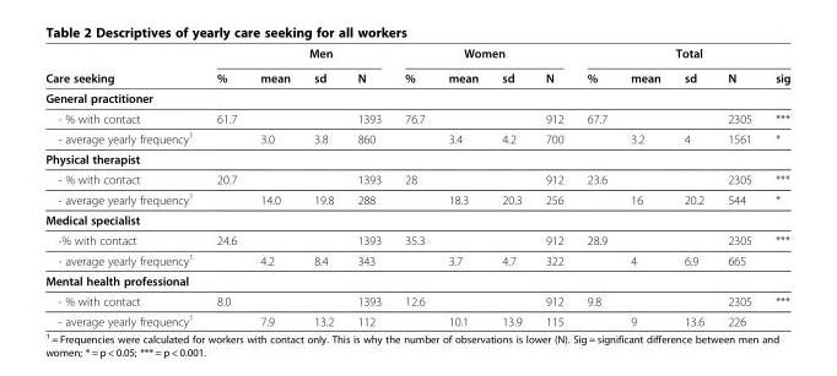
<table><thead><tr><td rowspan="2">Care seeking</td><td rowspan="2">%</td><td colspan="3">Men</td><td colspan="4">Women</td><td colspan="5">Total</td></tr><tr><td>mean</td><td>sd</td><td>N</td><td>%</td><td>mean</td><td>sd</td><td>N</td><td>%</td><td>mean</td><td>sd</td><td>N</td><td>sig</td></tr></thead><tbody><tr><td colspan="14">General practitioner</td></tr><tr><td>- % with contact</td><td>61.7</td><td></td><td></td><td>1393</td><td>76.7</td><td></td><td></td><td>912</td><td>67.7</td><td></td><td></td><td>2305</td><td>***</td></tr><tr><td>- average yearly frequency<sup>1</sup></td><td></td><td>3.0</td><td>3.8</td><td>860</td><td></td><td>3.4</td><td>4.2</td><td>700</td><td></td><td>3.2</td><td>4</td><td>1561</td><td>*</td></tr><tr><td colspan="14">Physical therapist</td></tr><tr><td>- % with contact</td><td>20.7</td><td></td><td></td><td>1393</td><td>28</td><td></td><td></td><td>912</td><td>23.6</td><td></td><td></td><td>2305</td><td>***</td></tr><tr><td>- average yearly frequency<sup>1</sup></td><td></td><td>14.0</td><td>19.8</td><td>288</td><td></td><td>18.3</td><td>20.3</td><td>256</td><td></td><td>16</td><td>20.2</td><td>544</td><td>*</td></tr><tr><td colspan="14">Medical specialist</td></tr><tr><td>-% with contact</td><td>24.6</td><td></td><td></td><td>1393</td><td>35.3</td><td></td><td></td><td>912</td><td>28.9</td><td></td><td></td><td>2305</td><td>***</td></tr><tr><td>- average yearly frequency<sup>1</sup></td><td></td><td>4.2</td><td>8.4</td><td>343</td><td></td><td>3.7</td><td>4.7</td><td>322</td><td></td><td>4</td><td>6.9</td><td>665</td><td></td></tr><tr><td colspan="14">Mental health professional</td></tr><tr><td>- % with contact</td><td>8.0</td><td></td><td></td><td>1393</td><td>12.6</td><td></td><td></td><td>912</td><td>9.8</td><td></td><td></td><td>2305</td><td>***</td></tr><tr><td>- average yearly frequency<sup>1</sup></td><td></td><td>7.9</td><td>13.2</td><td>112</td><td></td><td>10.1</td><td>13.9</td><td>115</td><td></td><td>9</td><td>13.6</td><td>226</td><td></td></tr></tbody></table>